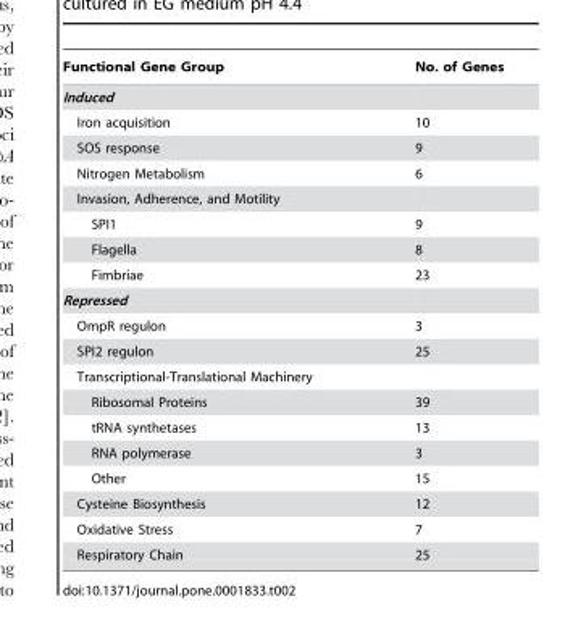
<table><thead><tr><td>Functional Gene Group</td><td>No. of Genes</td></tr></thead><tbody><tr><td colspan="2">Induced</td></tr><tr><td>Iron acquisition</td><td>10</td></tr><tr><td>SOS response</td><td>9</td></tr><tr><td>Nitrogen Metabolism</td><td>6</td></tr><tr><td colspan="2">Invasion, Adherence, and Motility</td></tr><tr><td>SPI1</td><td>9</td></tr><tr><td>Flagella</td><td>8</td></tr><tr><td>Fimbriae</td><td>23</td></tr><tr><td colspan="2">Repressed</td></tr><tr><td>OmpR regulon</td><td>3</td></tr><tr><td>SPI2 regulon</td><td>25</td></tr><tr><td colspan="2">Transcriptional-Translational Machinery</td></tr><tr><td>Ribosomal Proteins</td><td>39</td></tr><tr><td>tRNA synthetases</td><td>13</td></tr><tr><td>RNA polymerase</td><td>3</td></tr><tr><td>Other</td><td>15</td></tr><tr><td>Cysteine Biosynthesis</td><td>12</td></tr><tr><td>Oxidative Stress</td><td>7</td></tr><tr><td>Respiratory Chain</td><td>25</td></tr></tbody></table>